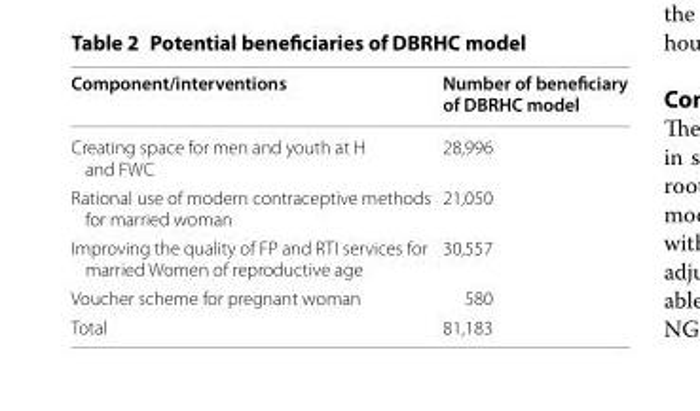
<table><thead><tr><td>Component/interventions</td><td>Number of beneficiary of DBRHC model</td></tr></thead><tbody><tr><td>Creating space for men and youth at H and FWC</td><td>28,996</td></tr><tr><td>Rational use of modern contraceptive methods for married woman</td><td>21,050</td></tr><tr><td>Improving the quality of FP and RTI services for married Women of reproductive age</td><td>30,557</td></tr><tr><td>Voucher scheme for pregnant woman</td><td>580</td></tr><tr><td>Total</td><td>81,183</td></tr></tbody></table>